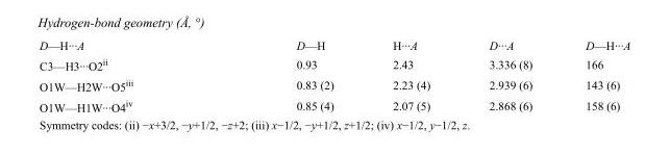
<table><tbody><tr><td>D—H···A</td><td>D—H</td><td>H···A</td><td>D···A</td><td>D—H···A</td></tr><tr><td>C3—H3···O2<sup>ii</sup></td><td>0.93</td><td>2.43</td><td>3.336 (8)</td><td>166</td></tr><tr><td>O1W—H2W···O5<sup>iii</sup></td><td>0.83 (2)</td><td>2.23 (4)</td><td>2.939 (6)</td><td>143 (6)</td></tr><tr><td>O1W—H1W···O4<sup>iv</sup></td><td>0.85 (4)</td><td>2.07 (5)</td><td>2.868 (6)</td><td>158 (6)</td></tr></tbody></table>